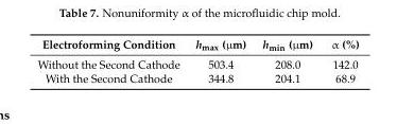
<table><thead><tr><td>Electroforming Condition</td><td>h<sub>max</sub> (µm)</td><td>h<sub>min</sub> (µm)</td><td>α (%)</td></tr></thead><tbody><tr><td>Without the Second Cathode</td><td>503.4</td><td>208.0</td><td>142.0</td></tr><tr><td>With the Second Cathode</td><td>344.8</td><td>204.1</td><td>68.9</td></tr></tbody></table>